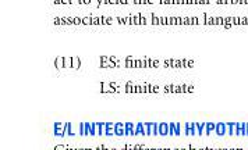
<table><tbody><tr><td rowspan="2">(11)</td><td>ES: finite state</td></tr><tr><td>LS: finite state</td></tr></tbody></table>